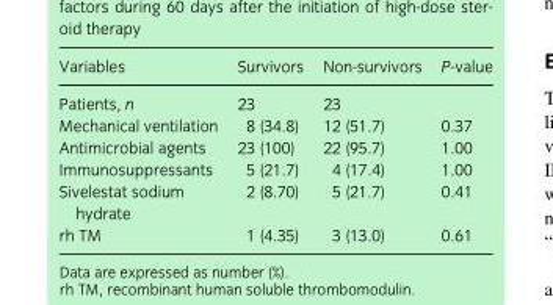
<table><thead><tr><td>Variables</td><td>Survivors</td><td>Non-survivors</td><td>P-value</td></tr></thead><tbody><tr><td>Patients, n</td><td>23</td><td>23</td><td></td></tr><tr><td>Mechanical ventilation</td><td>8 (34.8)</td><td>12 (51.7)</td><td>0.37</td></tr><tr><td>Antimicrobial agents</td><td>23 (100)</td><td>22 (95.7)</td><td>1.00</td></tr><tr><td>Immunosuppressants</td><td>5 (21.7)</td><td>4 (17.4)</td><td>1.00</td></tr><tr><td>Sivelestat sodium hydrate</td><td>2 (8.70)</td><td>5 (21.7)</td><td>0.41</td></tr><tr><td>rh TM</td><td>1 (4.35)</td><td>3 (13.0)</td><td>0.61</td></tr></tbody></table>